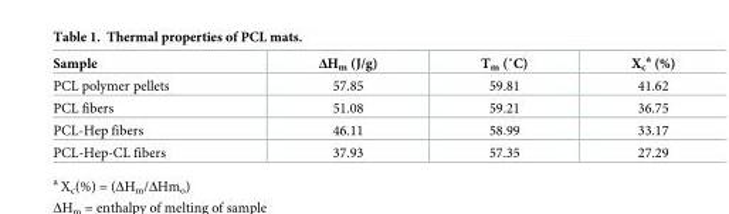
<table><thead><tr><td>Sample</td><td>ΔH<sub>m</sub> (J/g)</td><td>Tm (˚C)</td><td>X<sub>c</sub> <sup>a</sup> (%)</td></tr></thead><tbody><tr><td>PCL polymer pellets</td><td>57.85</td><td>59.81</td><td>41.62</td></tr><tr><td>PCL fibers</td><td>51.08</td><td>59.21</td><td>36.75</td></tr><tr><td>PCL-Hep fibers</td><td>46.11</td><td>58.99</td><td>33.17</td></tr><tr><td>PCL-Hep-CL fibers</td><td>37.93</td><td>57.35</td><td>27.29</td></tr></tbody></table>